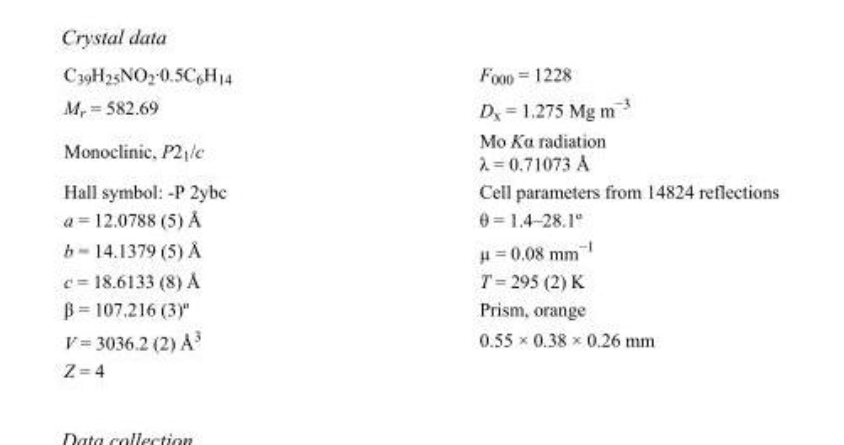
<table><tbody><tr><td>C<sub>39</sub>H<sub>25</sub>NO<sub>2</sub>·0.5C<sub>6</sub>H<sub>14</sub></td><td>F<sub>000</sub> = 1228</td></tr><tr><td>M<sub>r</sub> = 582.69</td><td>D<sub>x</sub> = 1.275 Mg m<sup>−3</sup></td></tr><tr><td>Monoclinic, P2<sub>1</sub>/c</td><td>Mo Kα radiation λ = 0.71073 Å</td></tr><tr><td>Hall symbol: -P 2ybc</td><td>Cell parameters from 14824 reflections</td></tr><tr><td>a = 12.0788 (5) Å</td><td>θ = 1.4–28.1º</td></tr><tr><td>b = 14.1379 (5) Å</td><td>µ = 0.08 mm<sup>−1</sup></td></tr><tr><td>c = 18.6133 (8) Å</td><td>T = 295 (2) K</td></tr><tr><td>β = 107.216 (3)º</td><td>Prism, orange</td></tr><tr><td>V = 3036.2 (2) Å<sup>3</sup></td><td>0.55 × 0.38 × 0.26 mm</td></tr><tr><td>Z = 4</td><td></td></tr></tbody></table>